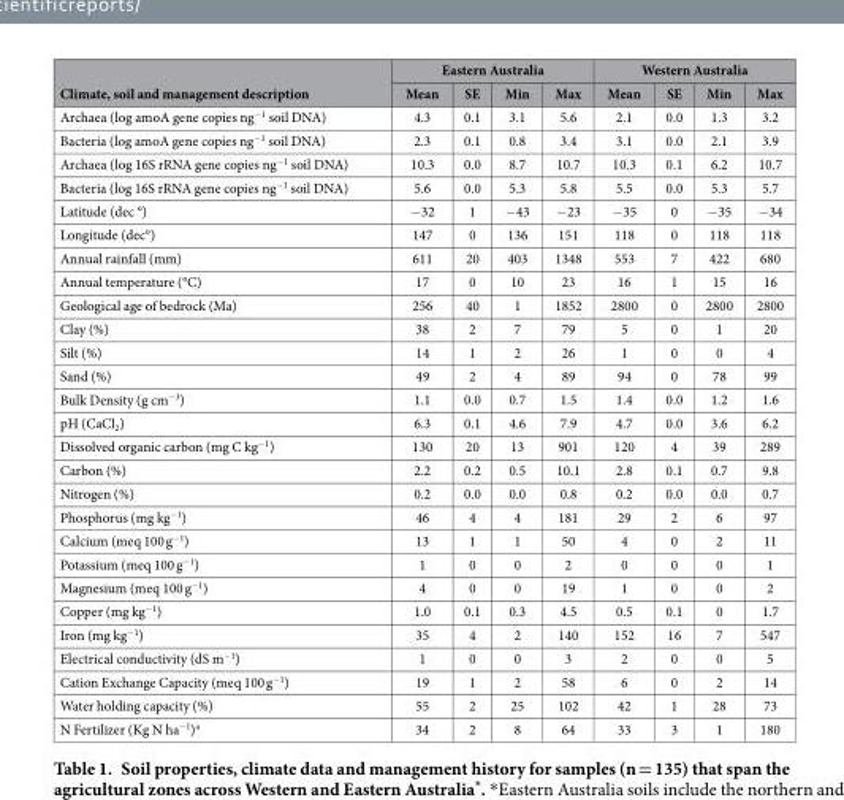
<table><thead><tr><td rowspan="2">Climate, soil and management description</td><td colspan="4">Eastern Australia</td><td colspan="4">Western Australia</td></tr><tr><td>Mean</td><td>SE</td><td>Min</td><td>Max</td><td>Mean</td><td>SE</td><td>Min</td><td>Max</td></tr></thead><tbody><tr><td>Archaea (log amoA gene copies ng<sup>−1</sup> soil DNA)</td><td>4.3</td><td>0.1</td><td>3.1</td><td>5.6</td><td>2.1</td><td>0.0</td><td>1.3</td><td>3.2</td></tr><tr><td>Bacteria (log amoA gene copies ng<sup>−1</sup> soil DNA)</td><td>2.3</td><td>0.1</td><td>0.8</td><td>3.4</td><td>3.1</td><td>0.0</td><td>2.1</td><td>3.9</td></tr><tr><td>Archaea (log 16S rRNA gene copies ng<sup>−1</sup> soil DNA)</td><td>10.3</td><td>0.0</td><td>8.7</td><td>10.7</td><td>10.3</td><td>0.1</td><td>6.2</td><td>10.7</td></tr><tr><td>Bacteria (log 16S rRNA gene copies ng<sup>−1</sup> soil DNA)</td><td>5.6</td><td>0.0</td><td>5.3</td><td>5.8</td><td>5.5</td><td>0.0</td><td>5.3</td><td>5.7</td></tr><tr><td>Latitude (dec °)</td><td>− 32</td><td>1</td><td>− 43</td><td>− 23</td><td>− 35</td><td>0</td><td>− 35</td><td>− 34</td></tr><tr><td>Longitude (dec°)</td><td>147</td><td>0</td><td>136</td><td>151</td><td>118</td><td>0</td><td>118</td><td>118</td></tr><tr><td>Annual rainfall (mm)</td><td>611</td><td>20</td><td>403</td><td>1348</td><td>553</td><td>7</td><td>422</td><td>680</td></tr><tr><td>Annual temperature (°C)</td><td>17</td><td>0</td><td>10</td><td>23</td><td>16</td><td>1</td><td>15</td><td>16</td></tr><tr><td>Geological age of bedrock (Ma)</td><td>256</td><td>40</td><td>1</td><td>1852</td><td>2800</td><td>0</td><td>2800</td><td>2800</td></tr><tr><td>Clay (%)</td><td>38</td><td>2</td><td>7</td><td>79</td><td>5</td><td>0</td><td>1</td><td>20</td></tr><tr><td>Silt (%)</td><td>14</td><td>1</td><td>2</td><td>26</td><td>1</td><td>0</td><td>0</td><td>4</td></tr><tr><td>Sand (%)</td><td>49</td><td>2</td><td>4</td><td>89</td><td>94</td><td>0</td><td>78</td><td>99</td></tr><tr><td>Bulk Density (g cm<sup>−3</sup>)</td><td>1.1</td><td>0.0</td><td>0.7</td><td>1.5</td><td>1.4</td><td>0.0</td><td>1.2</td><td>1.6</td></tr><tr><td>pH (CaCl<sub>2</sub>)</td><td>6.3</td><td>0.1</td><td>4.6</td><td>7.9</td><td>4.7</td><td>0.0</td><td>3.6</td><td>6.2</td></tr><tr><td>Dissolved organic carbon (mg C kg<sup>−1</sup>)</td><td>130</td><td>20</td><td>13</td><td>901</td><td>120</td><td>4</td><td>39</td><td>289</td></tr><tr><td>Carbon (%)</td><td>2.2</td><td>0.2</td><td>0.5</td><td>10.1</td><td>2.8</td><td>0.1</td><td>0.7</td><td>9.8</td></tr><tr><td>Nitrogen (%)</td><td>0.2</td><td>0.0</td><td>0.0</td><td>0.8</td><td>0.2</td><td>0.0</td><td>0.0</td><td>0.7</td></tr><tr><td>Phosphorus (mg kg<sup>−1</sup>)</td><td>46</td><td>4</td><td>4</td><td>181</td><td>29</td><td>2</td><td>6</td><td>97</td></tr><tr><td>Calcium (meq 100 g<sup>−1</sup>)</td><td>13</td><td>1</td><td>1</td><td>50</td><td>4</td><td>0</td><td>2</td><td>11</td></tr><tr><td>Potassium (meq 100 g<sup>−1</sup>)</td><td>1</td><td>0</td><td>0</td><td>2</td><td>0</td><td>0</td><td>0</td><td>1</td></tr><tr><td>Magnesium (meq 100 g<sup>−1</sup>)</td><td>4</td><td>0</td><td>0</td><td>19</td><td>1</td><td>0</td><td>0</td><td>2</td></tr><tr><td>Copper (mg kg<sup>−1</sup>)</td><td>1.0</td><td>0.1</td><td>0.3</td><td>4.5</td><td>0.5</td><td>0.1</td><td>0</td><td>1.7</td></tr><tr><td>Iron (mg kg<sup>−1</sup>)</td><td>35</td><td>4</td><td>2</td><td>140</td><td>152</td><td>16</td><td>7</td><td>547</td></tr><tr><td>Electrical conductivity (dS m<sup>−1</sup>)</td><td>1</td><td>0</td><td>0</td><td>3</td><td>2</td><td>0</td><td>0</td><td>5</td></tr><tr><td>Cation Exchange Capacity (meq 100 g<sup>−1</sup>)</td><td>19</td><td>1</td><td>2</td><td>58</td><td>6</td><td>0</td><td>2</td><td>14</td></tr><tr><td>Water holding capacity (%)</td><td>55</td><td>2</td><td>25</td><td>102</td><td>42</td><td>1</td><td>28</td><td>73</td></tr><tr><td>N Fertilizer (Kg N ha<sup>−1</sup>)<sup>a</sup></td><td>34</td><td>2</td><td>8</td><td>64</td><td>33</td><td>3</td><td>1</td><td>180</td></tr></tbody></table>